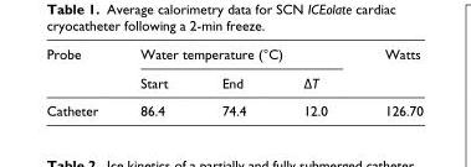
<table><thead><tr><td rowspan="2">Probe</td><td colspan="3">Water temperature (°C)</td><td rowspan="2">Watts</td></tr><tr><td>Start</td><td>End</td><td>ΔT</td></tr></thead><tbody><tr><td>Catheter</td><td>86.4</td><td>74.4</td><td>12.0</td><td>126.70</td></tr></tbody></table>